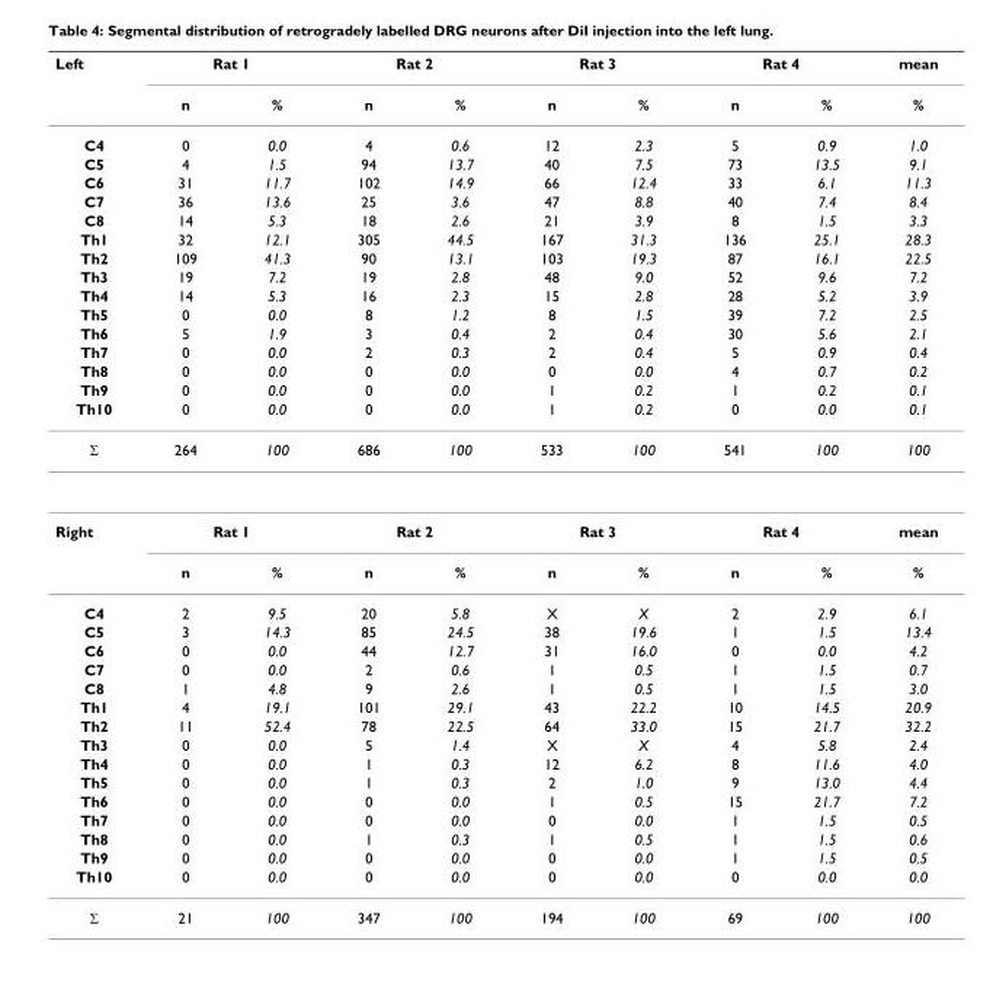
<table><thead><tr><td rowspan="2">Left</td><td colspan="2">Rat 1</td><td colspan="2">Rat 2</td><td colspan="2">Rat 3</td><td colspan="2">Rat 4</td><td rowspan="2">mean %</td></tr><tr><td>n</td><td>%</td><td>n</td><td>%</td><td>n</td><td>%</td><td>n</td><td>%</td></tr></thead><tbody><tr><td>C4</td><td>0</td><td>0.0</td><td>4</td><td>0.6</td><td>12</td><td>2.3</td><td>5</td><td>0.9</td><td>1.0</td></tr><tr><td>C5</td><td>4</td><td>1.5</td><td>94</td><td>13.7</td><td>40</td><td>7.5</td><td>73</td><td>13.5</td><td>9.1</td></tr><tr><td>C6</td><td>31</td><td>11.7</td><td>102</td><td>14.9</td><td>66</td><td>12.4</td><td>33</td><td>6.1</td><td>11.3</td></tr><tr><td>C7</td><td>36</td><td>13.6</td><td>25</td><td>3.6</td><td>47</td><td>8.8</td><td>40</td><td>7.4</td><td>8.4</td></tr><tr><td>C8</td><td>14</td><td>5.3</td><td>18</td><td>2.6</td><td>21</td><td>3.9</td><td>8</td><td>1.5</td><td>3.3</td></tr><tr><td>Th1</td><td>32</td><td>12.1</td><td>305</td><td>44.5</td><td>167</td><td>31.3</td><td>136</td><td>25.1</td><td>28.3</td></tr><tr><td>Th2</td><td>109</td><td>41.3</td><td>90</td><td>13.1</td><td>103</td><td>19.3</td><td>87</td><td>16.1</td><td>22.5</td></tr><tr><td>Th3</td><td>19</td><td>7.2</td><td>19</td><td>2.8</td><td>48</td><td>9.0</td><td>52</td><td>9.6</td><td>7.2</td></tr><tr><td>Th4</td><td>14</td><td>5.3</td><td>16</td><td>2.3</td><td>15</td><td>2.8</td><td>28</td><td>5.2</td><td>3.9</td></tr><tr><td>Th5</td><td>0</td><td>0.0</td><td>8</td><td>1.2</td><td>8</td><td>1.5</td><td>39</td><td>7.2</td><td>2.5</td></tr><tr><td>Th6</td><td>5</td><td>1.9</td><td>3</td><td>0.4</td><td>2</td><td>0.4</td><td>30</td><td>5.6</td><td>2.1</td></tr><tr><td>Th7</td><td>0</td><td>0.0</td><td>2</td><td>0.3</td><td>2</td><td>0.4</td><td>5</td><td>0.9</td><td>0.4</td></tr><tr><td>Th8</td><td>0</td><td>0.0</td><td>0</td><td>0.0</td><td>0</td><td>0.0</td><td>4</td><td>0.7</td><td>0.2</td></tr><tr><td>Th9</td><td>0</td><td>0.0</td><td>0</td><td>0.0</td><td>1</td><td>0.2</td><td>1</td><td>0.2</td><td>0.1</td></tr><tr><td>Th10</td><td>0</td><td>0.0</td><td>0</td><td>0.0</td><td>1</td><td>0.2</td><td>0</td><td>0.0</td><td>0.1</td></tr><tr><td>Σ</td><td>264</td><td>100</td><td>686</td><td>100</td><td>533</td><td>100</td><td>541</td><td>100</td><td>100</td></tr><tr><td rowspan="2">Right</td><td colspan="2">Rat 1</td><td colspan="2">Rat 2</td><td colspan="2">Rat 3</td><td colspan="2">Rat 4</td><td>mean</td></tr><tr><td>n</td><td>%</td><td>n</td><td>%</td><td>n</td><td>%</td><td>n</td><td>%</td><td>%</td></tr><tr><td>C4</td><td>2</td><td>9.5</td><td>20</td><td>5.8</td><td>X</td><td>X</td><td>2</td><td>2.9</td><td>6.1</td></tr><tr><td>C5</td><td>3</td><td>14.3</td><td>85</td><td>24.5</td><td>38</td><td>19.6</td><td>1</td><td>1.5</td><td>13.4</td></tr><tr><td>C6</td><td>0</td><td>0.0</td><td>44</td><td>12.7</td><td>31</td><td>16.0</td><td>0</td><td>0.0</td><td>4.2</td></tr><tr><td>C7</td><td>0</td><td>0.0</td><td>2</td><td>0.6</td><td>1</td><td>0.5</td><td>1</td><td>1.5</td><td>0.7</td></tr><tr><td>C8</td><td>1</td><td>4.8</td><td>9</td><td>2.6</td><td>1</td><td>0.5</td><td>1</td><td>1.5</td><td>3.0</td></tr><tr><td>Th1</td><td>4</td><td>19.1</td><td>101</td><td>29.1</td><td>43</td><td>22.2</td><td>10</td><td>14.5</td><td>20.9</td></tr><tr><td>Th2</td><td>11</td><td>52.4</td><td>78</td><td>22.5</td><td>64</td><td>33.0</td><td>15</td><td>21.7</td><td>32.2</td></tr><tr><td>Th3</td><td>0</td><td>0.0</td><td>5</td><td>1.4</td><td>X</td><td>X</td><td>4</td><td>5.8</td><td>2.4</td></tr><tr><td>Th4</td><td>0</td><td>0.0</td><td>1</td><td>0.3</td><td>12</td><td>6.2</td><td>8</td><td>11.6</td><td>4.0</td></tr><tr><td>Th5</td><td>0</td><td>0.0</td><td>1</td><td>0.3</td><td>2</td><td>1.0</td><td>9</td><td>13.0</td><td>4.4</td></tr><tr><td>Th6</td><td>0</td><td>0.0</td><td>0</td><td>0.0</td><td>1</td><td>0.5</td><td>15</td><td>21.7</td><td>7.2</td></tr><tr><td>Th7</td><td>0</td><td>0.0</td><td>0</td><td>0.0</td><td>0</td><td>0.0</td><td>1</td><td>1.5</td><td>0.5</td></tr><tr><td>Th8</td><td>0</td><td>0.0</td><td>1</td><td>0.3</td><td>1</td><td>0.5</td><td>1</td><td>1.5</td><td>0.6</td></tr><tr><td>Th9</td><td>0</td><td>0.0</td><td>0</td><td>0.0</td><td>0</td><td>0.0</td><td>1</td><td>1.5</td><td>0.5</td></tr><tr><td>Th10</td><td>0</td><td>0.0</td><td>0</td><td>0.0</td><td>0</td><td>0.0</td><td>0</td><td>0.0</td><td>0.0</td></tr><tr><td>Σ</td><td>21</td><td>100</td><td>347</td><td>100</td><td>194</td><td>100</td><td>69</td><td>100</td><td>100</td></tr></tbody></table>